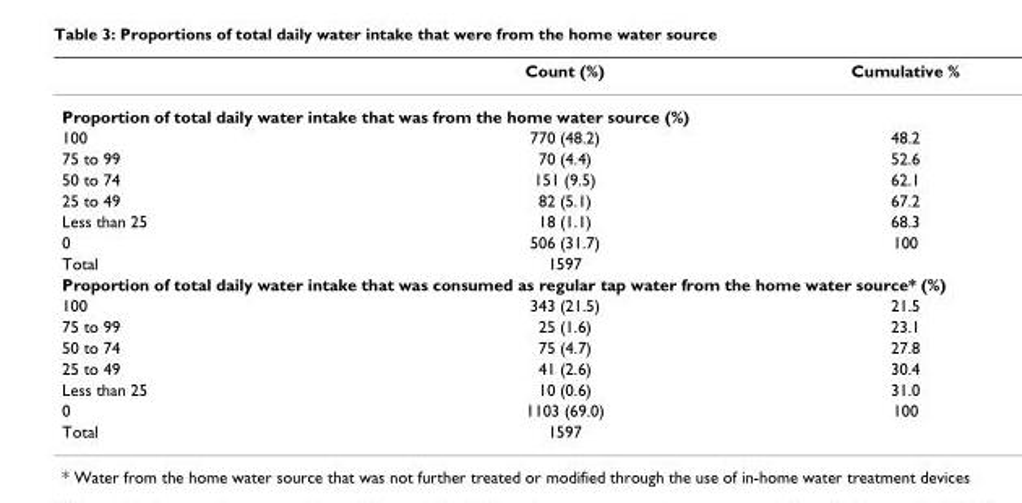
<table><thead><tr><td></td><td>Count (%)</td><td>Cumulative %</td></tr></thead><tbody><tr><td colspan="3">Proportion of total daily water intake that was from the home water source (%)</td></tr><tr><td>100</td><td>770 (48.2)</td><td>48.2</td></tr><tr><td>75 to 99</td><td>70 (4.4)</td><td>52.6</td></tr><tr><td>50 to 74</td><td>151 (9.5)</td><td>62.1</td></tr><tr><td>25 to 49</td><td>82 (5.1)</td><td>67.2</td></tr><tr><td>Less than 25</td><td>18 (1.1)</td><td>68.3</td></tr><tr><td>0</td><td>506 (31.7)</td><td>100</td></tr><tr><td>Total</td><td>1597</td><td></td></tr><tr><td colspan="3">Proportion of total daily water intake that was consumed as regular tap water from the home water source* (%)</td></tr><tr><td>100</td><td>343 (21.5)</td><td>21.5</td></tr><tr><td>75 to 99</td><td>25 (1.6)</td><td>23.1</td></tr><tr><td>50 to 74</td><td>75 (4.7)</td><td>27.8</td></tr><tr><td>25 to 49</td><td>41 (2.6)</td><td>30.4</td></tr><tr><td>Less than 25</td><td>10 (0.6)</td><td>31.0</td></tr><tr><td>0</td><td>1103 (69.0)</td><td>100</td></tr><tr><td>Total</td><td>1597</td><td></td></tr></tbody></table>